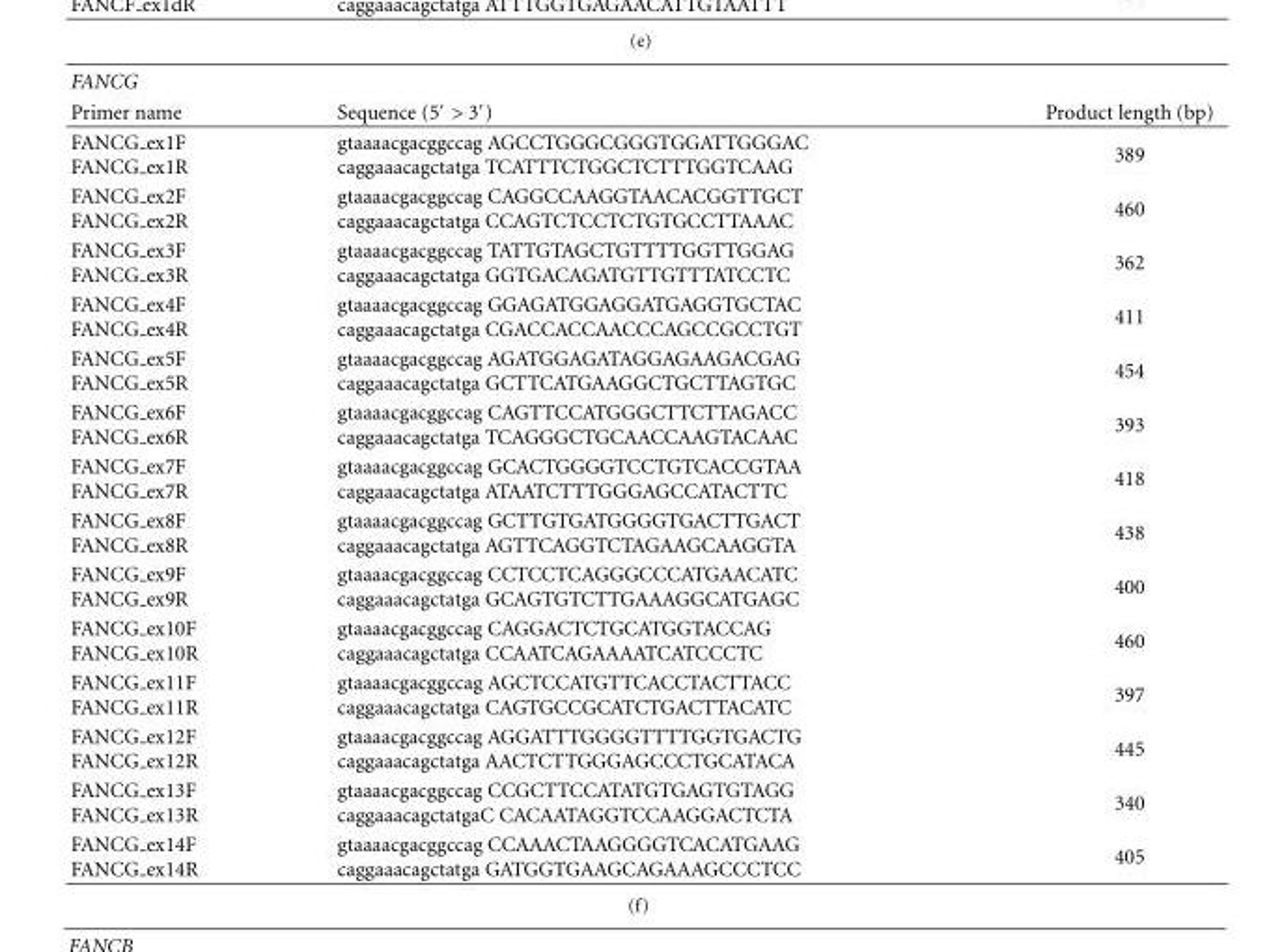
<table><thead><tr><td rowspan="2">FANCG Primer name</td><td rowspan="2">Sequence (5′ &gt; 3′)</td><td rowspan="2">Product length (bp)</td></tr><tr></tr></thead><tbody><tr><td>FANCG <sub>ex1F FANCG</sub> ex1R</td><td>gtaaaacgacggccag AGCCTGGGCGGGTGGATTGGGAC caggaaacagctatga TCATTTCTGGCTCTTTGGTCAAG</td><td>389</td></tr><tr><td>FANCG <sub>ex2F FANCG</sub> ex2R</td><td>gtaaaacgacggccag CAGGCCAAGGTAACACGGTTGCT caggaaacagctatga CCAGTCTCCTCTGTGCCTTAAAC</td><td>460</td></tr><tr><td>FANCG <sub>ex3F FANCG</sub> ex3R</td><td>gtaaaacgacggccag TATTGTAGCTGTTTTGGTTGGAG caggaaacagctatga GGTGACAGATGTTGTTTATCCTC</td><td>362</td></tr><tr><td>FANCG <sub>ex4F FANCG</sub> ex4R</td><td>gtaaaacgacggccag GGAGATGGAGGATGAGGTGCTAC caggaaacagctatga CGACCACCAACCCAGCCGCCTGT</td><td>411</td></tr><tr><td>FANCG <sub>ex5F FANCG</sub> ex5R</td><td>gtaaaacgacggccag AGATGGAGATAGGAGAAGACGAG caggaaacagctatga GCTTCATGAAGGCTGCTTAGTGC</td><td>454</td></tr><tr><td>FANCG <sub>ex6F FANCG</sub> ex6R</td><td>gtaaaacgacggccag CAGTTCCATGGGCTTCTTAGACC caggaaacagctatga TCAGGGCTGCAACCAAGTACAAC</td><td>393</td></tr><tr><td>FANCG <sub>ex7F FANCG</sub> ex7R</td><td>gtaaaacgacggccag GCACTGGGGTCCTGTCACCGTAA caggaaacagctatga ATAATCTTTGGGAGCCATACTTC</td><td>418</td></tr><tr><td>FANCG <sub>ex8F FANCG</sub> ex8R</td><td>gtaaaacgacggccag GCTTGTGATGGGGTGACTTGACT caggaaacagctatga AGTTCAGGTCTAGAAGCAAGGTA</td><td>438</td></tr><tr><td>FANCG <sub>ex9F FANCG</sub> ex9R</td><td>gtaaaacgacggccag CCTCCTCAGGGCCCATGAACATC caggaaacagctatga GCAGTGTCTTGAAAGGCATGAGC</td><td>400</td></tr><tr><td>FANCG <sub>ex10F FANCG</sub> ex10R</td><td>gtaaaacgacggccag CAGGACTCTGCATGGTACCAG caggaaacagctatga CCAATCAGAAAATCATCCCTC</td><td>460</td></tr><tr><td>FANCG <sub>ex11F FANCG</sub> ex11R</td><td>gtaaaacgacggccag AGCTCCATGTTCACCTACTTACC caggaaacagctatga CAGTGCCGCATCTGACTTACATC</td><td>397</td></tr><tr><td>FANCG <sub>ex12F FANCG</sub> ex12R</td><td>gtaaaacgacggccag AGGATTTGGGGTTTTGGTGACTG caggaaacagctatga AACTCTTGGGAGCCCTGCATACA</td><td>445</td></tr><tr><td>FANCG <sub>ex13F FANCG</sub> ex13R</td><td>gtaaaacgacggccag CCGCTTCCATATGTGAGTGTAGG caggaaacagctatgaC CACAATAGGTCCAAGGACTCTA</td><td>340</td></tr><tr><td>FANCG <sub>ex14F FANCG</sub> ex14R</td><td>gtaaaacgacggccag CCAAACTAAGGGGTCACATGAAG caggaaacagctatga GATGGTGAAGCAGAAAGCCCTCC</td><td>405</td></tr></tbody></table>